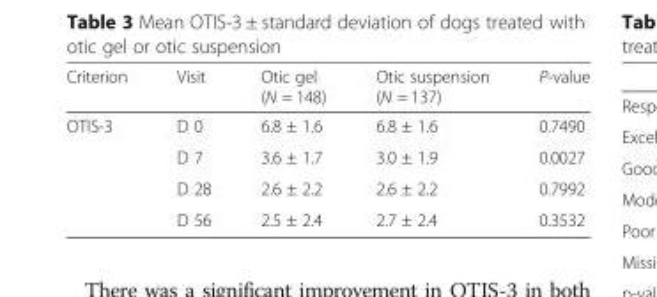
<table><thead><tr><td>Criterion</td><td>Visit</td><td>Otic gel (N = 148)</td><td>Otic suspension (N = 137)</td><td>P-value</td></tr></thead><tbody><tr><td rowspan="4">OTIS-3</td><td>D 0</td><td>6.8 ± 1.6</td><td>6.8 ± 1.6</td><td>0.7490</td></tr><tr><td>D 7</td><td>3.6 ± 1.7</td><td>3.0 ± 1.9</td><td>0.0027</td></tr><tr><td>D 28</td><td>2.6 ± 2.2</td><td>2.6 ± 2.2</td><td>0.7992</td></tr><tr><td>D 56</td><td>2.5 ± 2.4</td><td>2.7 ± 2.4</td><td>0.3532</td></tr></tbody></table>